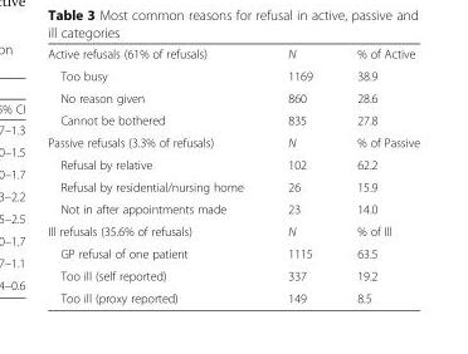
<table><tbody><tr><td>Active refusals (61% of refusals)</td><td>N</td><td>% of Active</td></tr><tr><td>Too busy</td><td>1169</td><td>38.9</td></tr><tr><td>No reason given</td><td>860</td><td>28.6</td></tr><tr><td>Cannot be bothered</td><td>835</td><td>27.8</td></tr><tr><td>Passive refusals (3.3% of refusals)</td><td>N</td><td>% of Passive</td></tr><tr><td>Refusal by relative</td><td>102</td><td>62.2</td></tr><tr><td>Refusal by residential/nursing home</td><td>26</td><td>15.9</td></tr><tr><td>Not in after appointments made</td><td>23</td><td>14.0</td></tr><tr><td>Ill refusals (35.6% of refusals)</td><td>N</td><td>% of Ill</td></tr><tr><td>GP refusal of one patient</td><td>1115</td><td>63.5</td></tr><tr><td>Too ill (self reported)</td><td>337</td><td>19.2</td></tr><tr><td>Too ill (proxy reported)</td><td>149</td><td>8.5</td></tr></tbody></table>